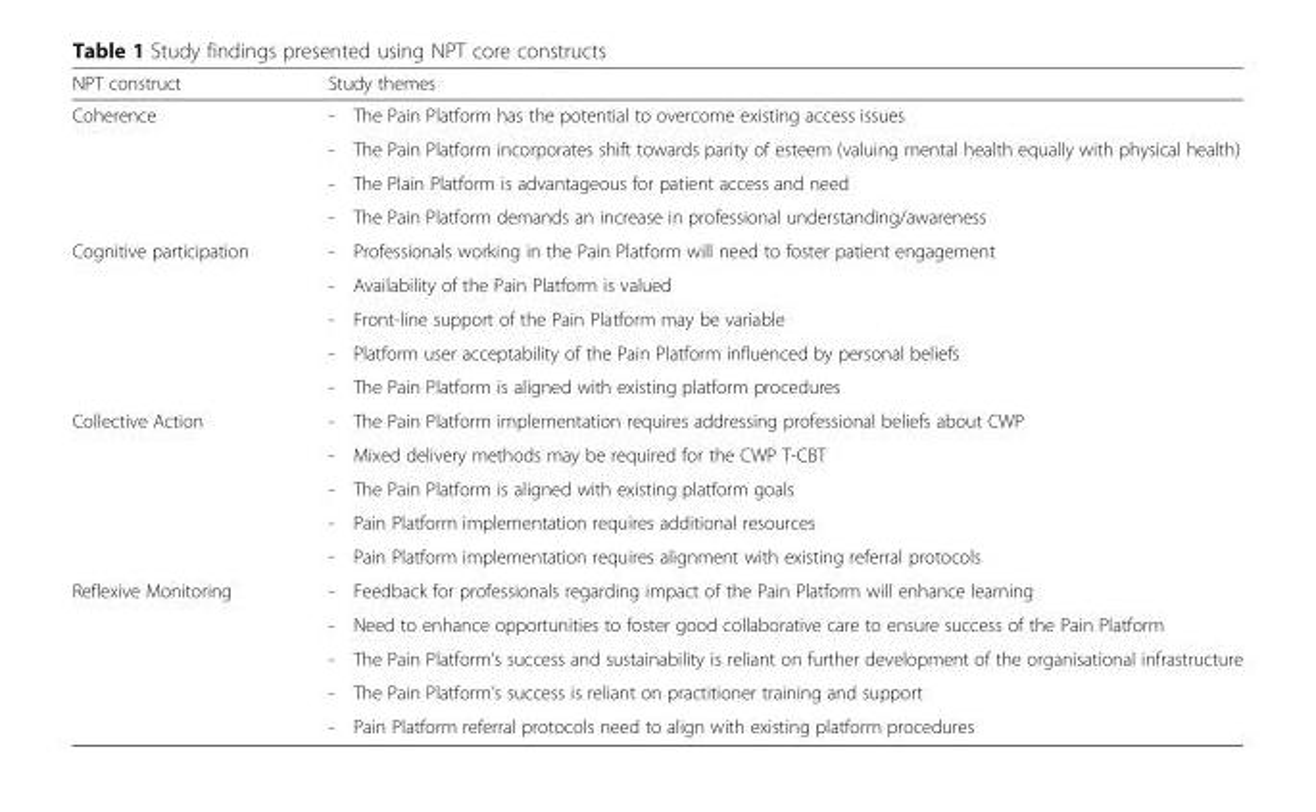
<table><thead><tr><td>NPT construct</td><td>Study themes</td></tr></thead><tbody><tr><td rowspan="4">Coherence</td><td>- The Pain Platform has the potential to overcome existing access issues</td></tr><tr><td>- The Pain Platform incorporates shift towards parity of esteem (valuing mental health equally with physical health)</td></tr><tr><td>- The Plain Platform is advantageous for patient access and need</td></tr><tr><td>- The Pain Platform demands an increase in professional understanding/awareness</td></tr><tr><td rowspan="5">Cognitive participation</td><td>- Professionals working in the Pain Platform will need to foster patient engagement</td></tr><tr><td>- Availability of the Pain Platform is valued</td></tr><tr><td>- Front-line support of the Pain Platform may be variable</td></tr><tr><td>- Platform user acceptability of the Pain Platform influenced by personal beliefs</td></tr><tr><td>- The Pain Platform is aligned with existing platform procedures</td></tr><tr><td rowspan="5">Collective Action</td><td>- The Pain Platform implementation requires addressing professional beliefs about CWP</td></tr><tr><td>- Mixed delivery methods may be required for the CWP T-CBT</td></tr><tr><td>- The Pain Platform is aligned with existing platform goals</td></tr><tr><td>- Pain Platform implementation requires additional resources</td></tr><tr><td>- Pain Platform implementation requires alignment with existing referral protocols</td></tr><tr><td rowspan="5">Reflexive Monitoring</td><td>- Feedback for professionals regarding impact of the Pain Platform will enhance learning</td></tr><tr><td>- Need to enhance opportunities to foster good collaborative care to ensure success of the Pain Platform</td></tr><tr><td>- The Pain Platform’s success and sustainability is reliant on further development of the organisational infrastructure</td></tr><tr><td>- The Pain Platform’s success is reliant on practitioner training and support</td></tr><tr><td>- Pain Platform referral protocols need to align with existing platform procedures</td></tr></tbody></table>